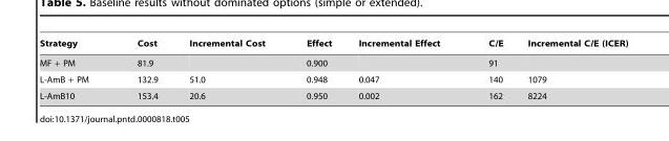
<table><thead><tr><td>Strategy</td><td>Cost</td><td>Incremental Cost</td><td>Effect</td><td>Incremental Effect</td><td>C/E</td><td>Incremental C/E (ICER)</td></tr></thead><tbody><tr><td>MF + PM</td><td>81.9</td><td></td><td>0.900</td><td></td><td>91</td><td></td></tr><tr><td>L-AmB + PM</td><td>132.9</td><td>51.0</td><td>0.948</td><td>0.047</td><td>140</td><td>1079</td></tr><tr><td>L-AmB10</td><td>153.4</td><td>20.6</td><td>0.950</td><td>0.002</td><td>162</td><td>8224</td></tr></tbody></table>